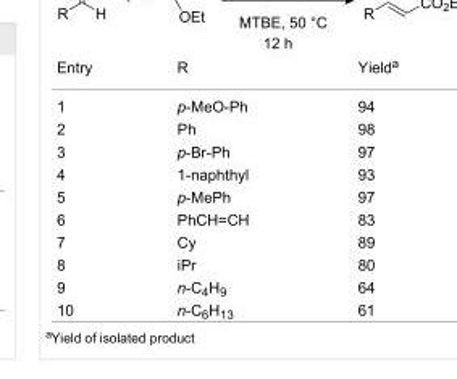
<table><tbody><tr><td>Entry</td><td>R</td><td>Yielda</td></tr><tr><td>1</td><td>p-MeO-Ph</td><td>94</td></tr><tr><td>2</td><td>Ph</td><td>98</td></tr><tr><td>3</td><td>p-Br-Ph</td><td>97</td></tr><tr><td>4</td><td>1-naphthyl</td><td>93</td></tr><tr><td>5</td><td>p-MePh</td><td>97</td></tr><tr><td>6</td><td>PhCH=CH</td><td>83</td></tr><tr><td>7</td><td>Cy</td><td>89</td></tr><tr><td>8</td><td>iPr</td><td>80</td></tr><tr><td>9</td><td>n-C<sub>4</sub>H<sub>9</sub></td><td>64</td></tr><tr><td>10</td><td>n-C<sub>6</sub>H<sub>13</sub></td><td>61</td></tr></tbody></table>